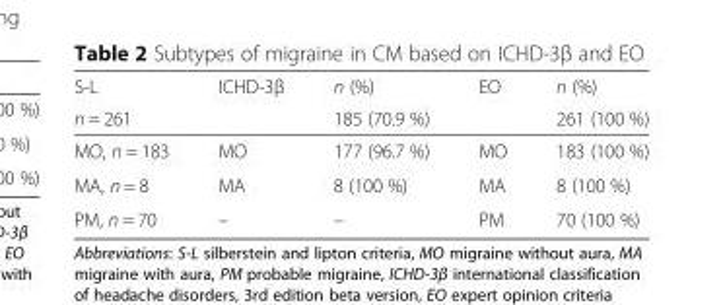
<table><thead><tr><td rowspan="2">S-L n = 261</td><td rowspan="2">ICHD-3β</td><td rowspan="2">n (%) 185 (70.9 %)</td><td rowspan="2">EO</td><td rowspan="2">n (%) 261 (100 %)</td></tr><tr></tr></thead><tbody><tr><td>MO, n = 183</td><td>MO</td><td>177 (96.7 %)</td><td>MO</td><td>183 (100 %)</td></tr><tr><td>MA, n = 8</td><td>MA</td><td>8 (100 %)</td><td>MA</td><td>8 (100 %)</td></tr><tr><td>PM, n = 70</td><td>–</td><td>–</td><td>PM</td><td>70 (100 %)</td></tr></tbody></table>